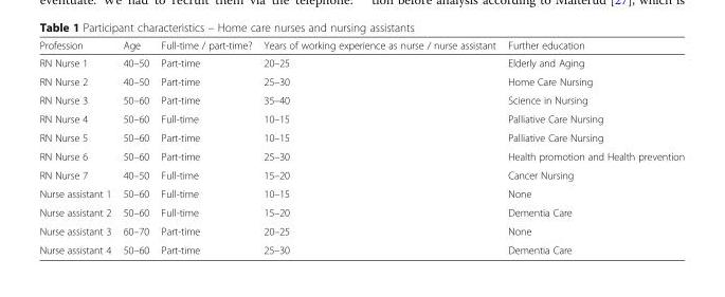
<table><thead><tr><td>Profession</td><td>Age</td><td>Full-time / part-time?</td><td>Years of working experience as nurse / nurse assistant</td><td>Further education</td></tr></thead><tbody><tr><td>RN Nurse 1</td><td>40–50</td><td>Part-time</td><td>20–25</td><td>Elderly and Aging</td></tr><tr><td>RN Nurse 2</td><td>40–50</td><td>Part-time</td><td>25–30</td><td>Home Care Nursing</td></tr><tr><td>RN Nurse 3</td><td>50–60</td><td>Part-time</td><td>35–40</td><td>Science in Nursing</td></tr><tr><td>RN Nurse 4</td><td>50–60</td><td>Full-time</td><td>10–15</td><td>Palliative Care Nursing</td></tr><tr><td>RN Nurse 5</td><td>50–60</td><td>Part-time</td><td>10–15</td><td>Palliative Care Nursing</td></tr><tr><td>RN Nurse 6</td><td>50–60</td><td>Part-time</td><td>25–30</td><td>Health promotion and Health prevention</td></tr><tr><td>RN Nurse 7</td><td>40–50</td><td>Full-time</td><td>15–20</td><td>Cancer Nursing</td></tr><tr><td>Nurse assistant 1</td><td>50–60</td><td>Full-time</td><td>10–15</td><td>None</td></tr><tr><td>Nurse assistant 2</td><td>50–60</td><td>Full-time</td><td>15–20</td><td>Dementia Care</td></tr><tr><td>Nurse assistant 3</td><td>60–70</td><td>Part-time</td><td>20–25</td><td>None</td></tr><tr><td>Nurse assistant 4</td><td>50–60</td><td>Part-time</td><td>25–30</td><td>Dementia Care</td></tr></tbody></table>